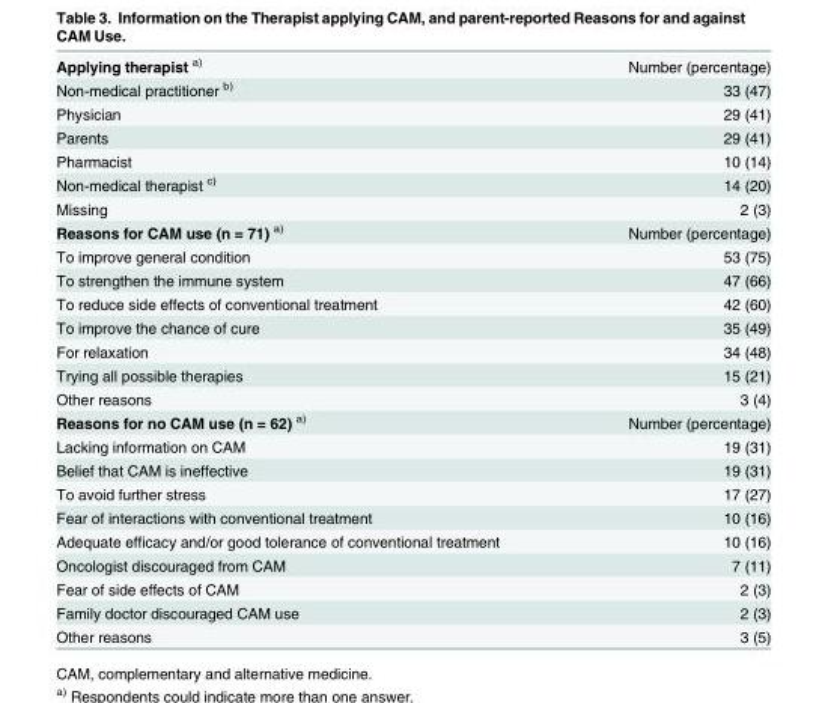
<table><tbody><tr><td>Applying therapist <sup>a)</sup></td><td>Number (percentage)</td></tr><tr><td>Non-medical practitioner <sup>b)</sup></td><td>33 (47)</td></tr><tr><td>Physician</td><td>29 (41)</td></tr><tr><td>Parents</td><td>29 (41)</td></tr><tr><td>Pharmacist</td><td>10 (14)</td></tr><tr><td>Non-medical therapist <sup>c)</sup></td><td>14 (20)</td></tr><tr><td>Missing</td><td>2 (3)</td></tr><tr><td>Reasons for CAM use (n = 71) <sup>a)</sup></td><td>Number (percentage)</td></tr><tr><td>To improve general condition</td><td>53 (75)</td></tr><tr><td>To strengthen the immune system</td><td>47 (66)</td></tr><tr><td>To reduce side effects of conventional treatment</td><td>42 (60)</td></tr><tr><td>To improve the chance of cure</td><td>35 (49)</td></tr><tr><td>For relaxation</td><td>34 (48)</td></tr><tr><td>Trying all possible therapies</td><td>15 (21)</td></tr><tr><td>Other reasons</td><td>3 (4)</td></tr><tr><td>Reasons for no CAM use (n = 62) <sup>a)</sup></td><td>Number (percentage)</td></tr><tr><td>Lacking information on CAM</td><td>19 (31)</td></tr><tr><td>Belief that CAM is ineffective</td><td>19 (31)</td></tr><tr><td>To avoid further stress</td><td>17 (27)</td></tr><tr><td>Fear of interactions with conventional treatment</td><td>10 (16)</td></tr><tr><td>Adequate efficacy and/or good tolerance of conventional treatment</td><td>10 (16)</td></tr><tr><td>Oncologist discouraged from CAM</td><td>7 (11)</td></tr><tr><td>Fear of side effects of CAM</td><td>2 (3)</td></tr><tr><td>Family doctor discouraged CAM use</td><td>2 (3)</td></tr><tr><td>Other reasons</td><td>3 (5)</td></tr></tbody></table>